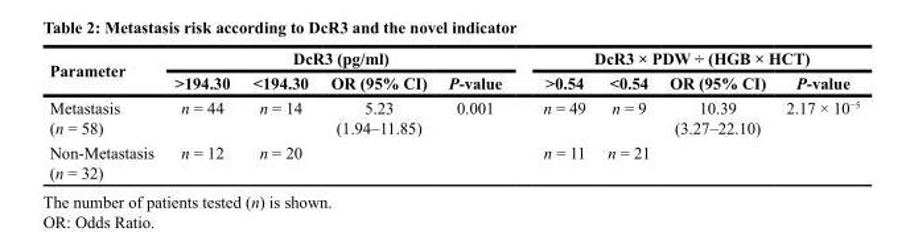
<table><thead><tr><td rowspan="2">Parameter</td><td colspan="4">DcR3 (pg/ml)</td><td colspan="4">DcR3 × PDW ÷ (HGB × HCT)</td></tr><tr><td>&gt;194.30</td><td>&lt;194.30</td><td>OR (95% CI)</td><td>P-value</td><td>&gt;0.54</td><td>&lt;0.54</td><td>OR (95% CI)</td><td>P-value</td></tr></thead><tbody><tr><td>Metastasis (n = 58)</td><td>n = 44</td><td>n = 14</td><td>5.23 (1.94–11.85)</td><td>0.001</td><td>n = 49</td><td>n = 9</td><td>10.39 (3.27–22.10)</td><td>2.17 × 10<sup>−5</sup></td></tr><tr><td>Non-Metastasis (n = 32)</td><td>n = 12</td><td>n = 20</td><td></td><td></td><td>n = 11</td><td>n = 21</td><td></td><td></td></tr></tbody></table>